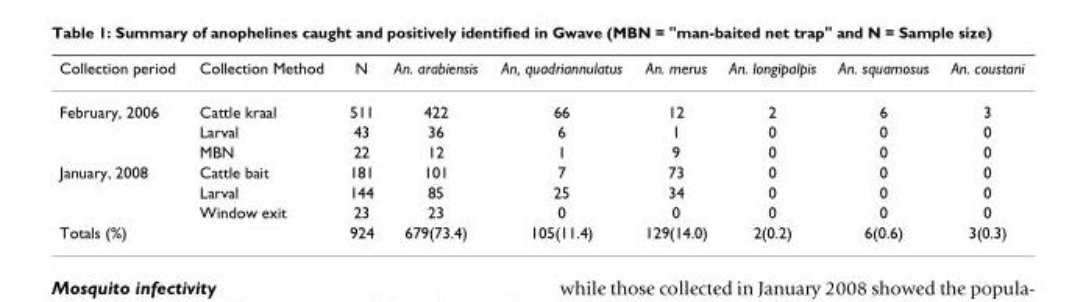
<table><thead><tr><td>Collection period</td><td>Collection Method</td><td>N</td><td>An. arabiensis</td><td>An, quadriannulatus</td><td>An. merus</td><td>An. longipalpis</td><td>An. squamosus</td><td>An. coustani</td></tr></thead><tbody><tr><td rowspan="3">February, 2006</td><td>Cattle kraal</td><td>511</td><td>422</td><td>66</td><td>12</td><td>2</td><td>6</td><td>3</td></tr><tr><td>Larval</td><td>43</td><td>36</td><td>6</td><td>1</td><td>0</td><td>0</td><td>0</td></tr><tr><td>MBN</td><td>22</td><td>12</td><td>1</td><td>9</td><td>0</td><td>0</td><td>0</td></tr><tr><td rowspan="3">January, 2008</td><td>Cattle bait</td><td>181</td><td>101</td><td>7</td><td>73</td><td>0</td><td>0</td><td>0</td></tr><tr><td>Larval</td><td>144</td><td>85</td><td>25</td><td>34</td><td>0</td><td>0</td><td>0</td></tr><tr><td>Window exit</td><td>23</td><td>23</td><td>0</td><td>0</td><td>0</td><td>0</td><td>0</td></tr><tr><td>Totals (%)</td><td></td><td>924</td><td>679(73.4)</td><td>105(11.4)</td><td>129(14.0)</td><td>2(0.2)</td><td>6(0.6)</td><td>3(0.3)</td></tr></tbody></table>